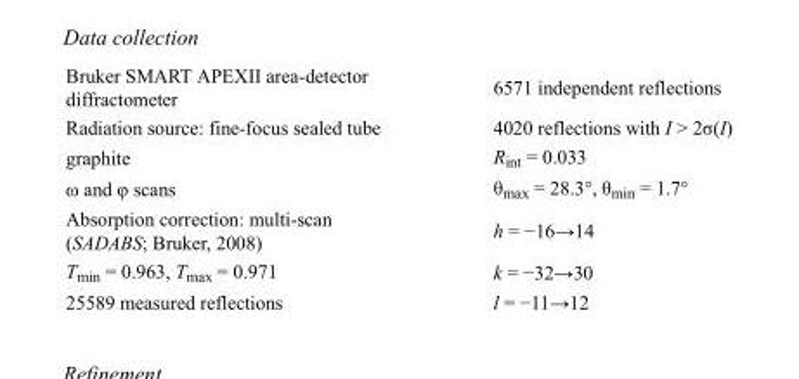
<table><tbody><tr><td>Bruker SMART APEXII area-detector diffractometer</td><td>6571 independent reflections</td></tr><tr><td>Radiation source: fine-focus sealed tube</td><td>4020 reflections with I &gt; 2σ(I)</td></tr><tr><td>graphite</td><td>R<sub>int</sub> = 0.033</td></tr><tr><td>ω and φ scans</td><td>θ<sub>max</sub> = 28.3°, θ<sub>min</sub> = 1.7°</td></tr><tr><td>Absorption correction: multi-scan (SADABS; Bruker, 2008)</td><td>h = −16→14</td></tr><tr><td>T<sub>min</sub> = 0.963, T<sub>max</sub> = 0.971</td><td>k = −32→30</td></tr><tr><td>25589 measured reflections</td><td>l = −11→12</td></tr></tbody></table>